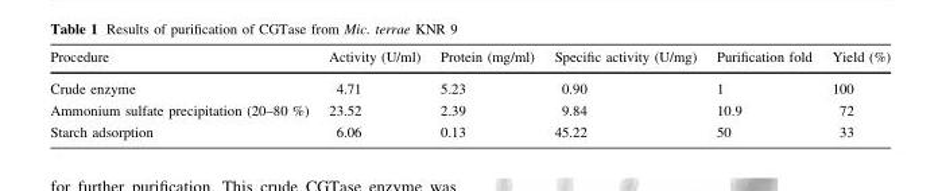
<table><thead><tr><td>Procedure</td><td>Activity (U/ml)</td><td>Protein (mg/ml)</td><td>Specific activity (U/mg)</td><td>Purification fold</td><td>Yield (%)</td></tr></thead><tbody><tr><td>Crude enzyme</td><td>4.71</td><td>5.23</td><td>0.90</td><td>1</td><td>100</td></tr><tr><td>Ammonium sulfate precipitation (20–80 %)</td><td>23.52</td><td>2.39</td><td>9.84</td><td>10.9</td><td>72</td></tr><tr><td>Starch adsorption</td><td>6.06</td><td>0.13</td><td>45.22</td><td>50</td><td>33</td></tr></tbody></table>